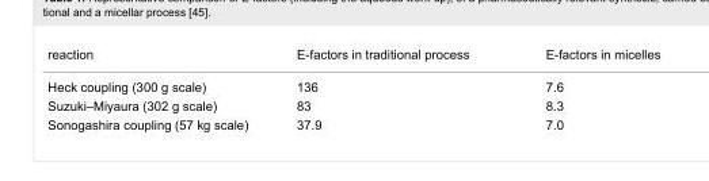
<table><tbody><tr><td>reaction</td><td>E-factors in traditional process</td><td>E-factors in micelles</td></tr><tr><td>Heck coupling (300 g scale)</td><td>136</td><td>7.6</td></tr><tr><td>Suzuki–Miyaura (302 g scale)</td><td>83</td><td>8.3</td></tr><tr><td>Sonogashira coupling (57 kg scale)</td><td>37.9</td><td>7.0</td></tr></tbody></table>